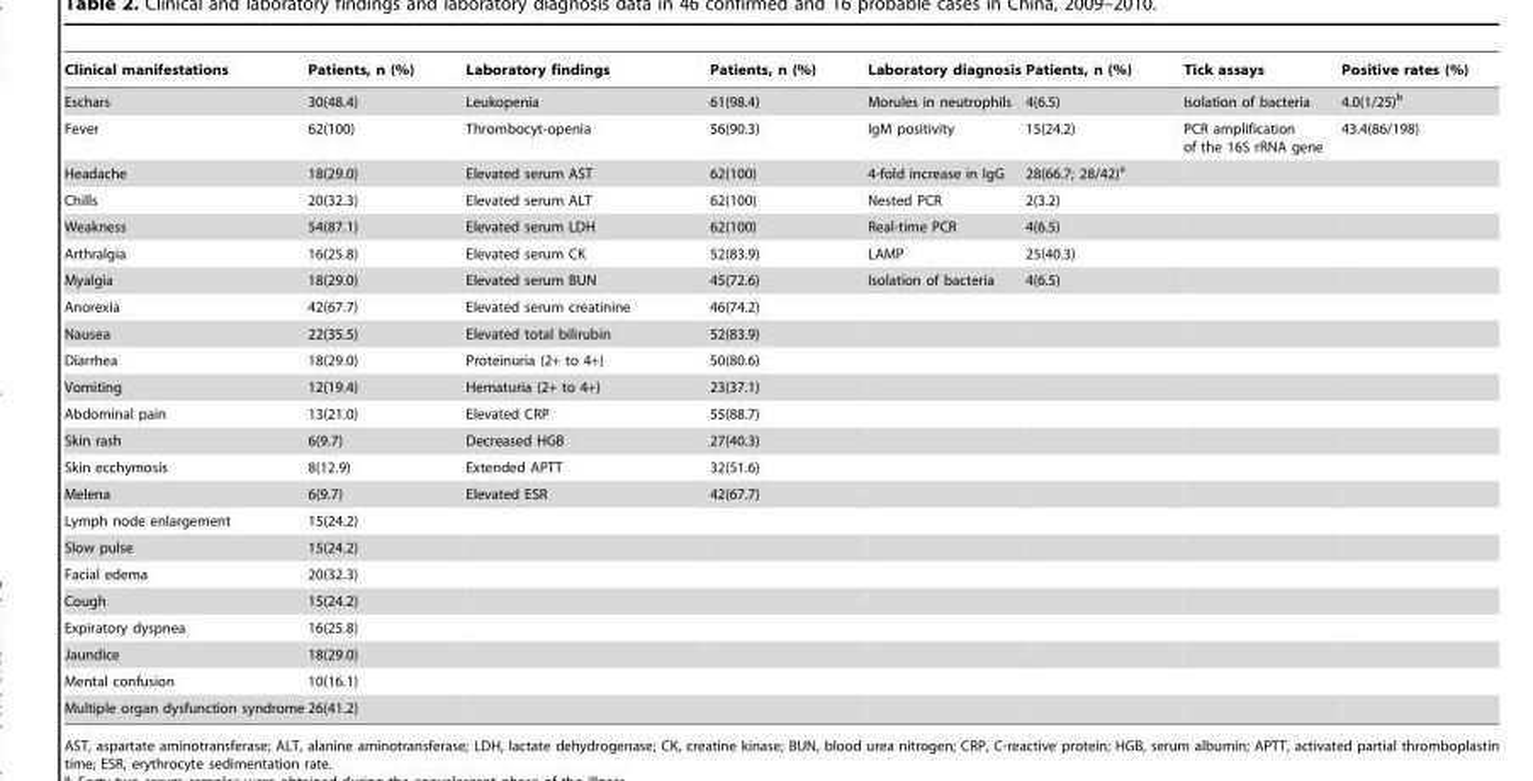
<table><thead><tr><td>Clinical manifestations</td><td>Patients, n (%)</td><td>Laboratory findings</td><td>Patients, n (%)</td><td>Laboratory diagnosis</td><td>Patients, n (%)</td><td>Tick assays</td><td>Positive rates (%)</td></tr></thead><tbody><tr><td>Eschars</td><td>30(48.4)</td><td>Leukopenia</td><td>61(98.4)</td><td>Morules in neutrophils</td><td>4(6.5)</td><td>Isolation of bacteria</td><td>4.0(1/25)<sup>b</sup></td></tr><tr><td>Fever</td><td>62(100)</td><td>Thrombocyt-openia</td><td>56(90.3)</td><td>IgM positivity</td><td>15(24.2)</td><td>PCR amplification of the 16S rRNA gene</td><td>43.4(86/198)</td></tr><tr><td>Headache</td><td>18(29.0)</td><td>Elevated serum AST</td><td>62(100)</td><td>4-fold increase in IgG</td><td>28(66.7; 28/42)<sup>a</sup></td><td></td><td></td></tr><tr><td>Chills</td><td>20(32.3)</td><td>Elevated serum ALT</td><td>62(100)</td><td>Nested PCR</td><td>2(3.2)</td><td></td><td></td></tr><tr><td>Weakness</td><td>54(87.1)</td><td>Elevated serum LDH</td><td>62(100)</td><td>Real-time PCR</td><td>4(6.5)</td><td></td><td></td></tr><tr><td>Arthralgia</td><td>16(25.8)</td><td>Elevated serum CK</td><td>52(83.9)</td><td>LAMP</td><td>25(40.3)</td><td></td><td></td></tr><tr><td>Myalgia</td><td>18(29.0)</td><td>Elevated serum BUN</td><td>45(72.6)</td><td>Isolation of bacteria</td><td>4(6.5)</td><td></td><td></td></tr><tr><td>Anorexia</td><td>42(67.7)</td><td>Elevated serum creatinine</td><td>46(74.2)</td><td></td><td></td><td></td><td></td></tr><tr><td>Nausea</td><td>22(35.5)</td><td>Elevated total bilirubin</td><td>52(83.9)</td><td></td><td></td><td></td><td></td></tr><tr><td>Diarrhea</td><td>18(29.0)</td><td>Proteinuria (2+ to 4+)</td><td>50(80.6)</td><td></td><td></td><td></td><td></td></tr><tr><td>Vomiting</td><td>12(19.4)</td><td>Hematuria (2+ to 4+)</td><td>23(37.1)</td><td></td><td></td><td></td><td></td></tr><tr><td>Abdominal pain</td><td>13(21.0)</td><td>Elevated CRP</td><td>55(88.7)</td><td></td><td></td><td></td><td></td></tr><tr><td>Skin rash</td><td>6(9.7)</td><td>Decreased HGB</td><td>27(40.3)</td><td></td><td></td><td></td><td></td></tr><tr><td>Skin ecchymosis</td><td>8(12.9)</td><td>Extended APTT</td><td>32(51.6)</td><td></td><td></td><td></td><td></td></tr><tr><td>Melena</td><td>6(9.7)</td><td>Elevated ESR</td><td>42(67.7)</td><td></td><td></td><td></td><td></td></tr><tr><td>Lymph node enlargement</td><td>15(24.2)</td><td></td><td></td><td></td><td></td><td></td><td></td></tr><tr><td>Slow pulse</td><td>15(24.2)</td><td></td><td></td><td></td><td></td><td></td><td></td></tr><tr><td>Facial edema</td><td>20(32.3)</td><td></td><td></td><td></td><td></td><td></td><td></td></tr><tr><td>Cough</td><td>15(24.2)</td><td></td><td></td><td></td><td></td><td></td><td></td></tr><tr><td>Expiratory dyspnea</td><td>16(25.8)</td><td></td><td></td><td></td><td></td><td></td><td></td></tr><tr><td>Jaundice</td><td>18(29.0)</td><td></td><td></td><td></td><td></td><td></td><td></td></tr><tr><td>Mental confusion</td><td>10(16.1)</td><td></td><td></td><td></td><td></td><td></td><td></td></tr><tr><td>Multiple organ dysfunction syndrome</td><td>26(41.2)</td><td></td><td></td><td></td><td></td><td></td><td></td></tr></tbody></table>